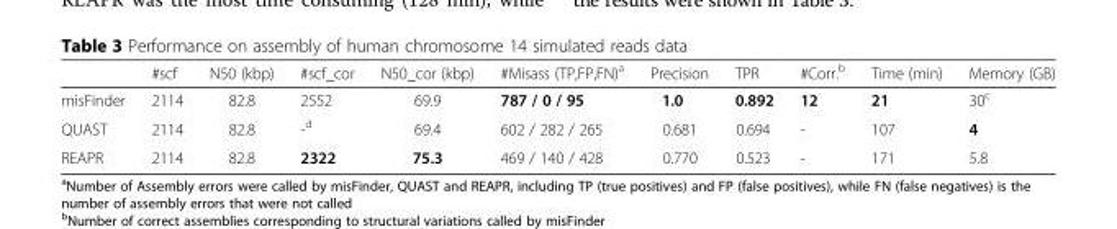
<table><thead><tr><td></td><td>#scf</td><td>N50 (kbp)</td><td>#scf_cor</td><td>N50_cor (kbp)</td><td>#Misass (TP,FP,FN)<sup>a</sup></td><td>Precision</td><td>TPR</td><td>#Corr.<sup>b</sup></td><td>Time (min)</td><td>Memory (GB)</td></tr></thead><tbody><tr><td>misFinder</td><td>2114</td><td>82.8</td><td>2552</td><td>69.9</td><td>787 / 0 / 95</td><td>1.0</td><td>0.892</td><td>12</td><td>21</td><td>30<sup>c</sup></td></tr><tr><td>QUAST</td><td>2114</td><td>82.8</td><td>-<sup>d</sup></td><td>69.4</td><td>602 / 282 / 265</td><td>0.681</td><td>0.694</td><td>-</td><td>107</td><td>4</td></tr><tr><td>REAPR</td><td>2114</td><td>82.8</td><td>2322</td><td>75.3</td><td>469 / 140 / 428</td><td>0.770</td><td>0.523</td><td>-</td><td>171</td><td>5.8</td></tr></tbody></table>